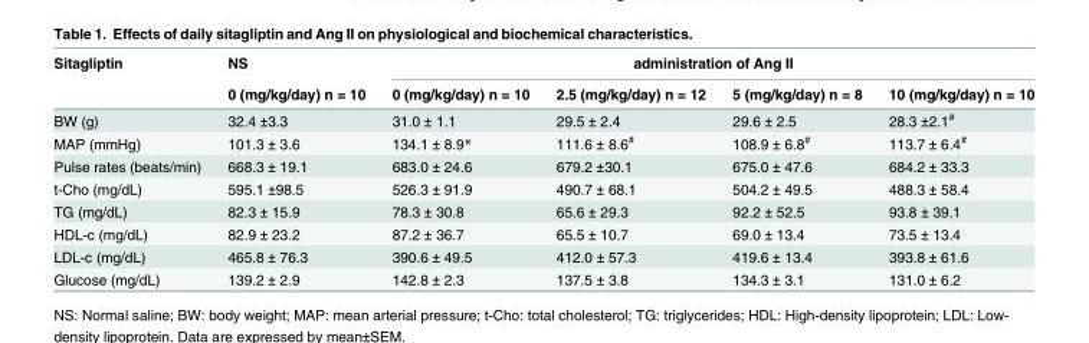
<table><thead><tr><td rowspan="2">Sitagliptin</td><td rowspan="2">NS 0 (mg/kg/day) n = 10</td><td colspan="4">administration of Ang II</td></tr><tr><td>0 (mg/kg/day) n = 10</td><td>2.5 (mg/kg/day) n = 12</td><td>5 (mg/kg/day) n = 8</td><td>10 (mg/kg/day) n = 10</td></tr></thead><tbody><tr><td>BW (g)</td><td>32.4 ±3.3</td><td>31.0 ± 1.1</td><td>29.5 ± 2.4</td><td>29.6 ± 2.5</td><td>28.3 ±2.1<sup>#</sup></td></tr><tr><td>MAP (mmHg)</td><td>101.3 ± 3.6</td><td>134.1 ± 8.9*</td><td>111.6 ± 8.6<sup>#</sup></td><td>108.9 ± 6.8<sup>#</sup></td><td>113.7 ± 6.4<sup>#</sup></td></tr><tr><td>Pulse rates (beats/min)</td><td>668.3 ± 19.1</td><td>683.0 ± 24.6</td><td>679.2 ±30.1</td><td>675.0 ± 47.6</td><td>684.2 ± 33.3</td></tr><tr><td>t-Cho (mg/dL)</td><td>595.1 ±98.5</td><td>526.3 ± 91.9</td><td>490.7 ± 68.1</td><td>504.2 ± 49.5</td><td>488.3 ± 58.4</td></tr><tr><td>TG (mg/dL)</td><td>82.3 ± 15.9</td><td>78.3 ± 30.8</td><td>65.6 ± 29.3</td><td>92.2 ± 52.5</td><td>93.8 ± 39.1</td></tr><tr><td>HDL-c (mg/dL)</td><td>82.9 ± 23.2</td><td>87.2 ± 36.7</td><td>65.5 ± 10.7</td><td>69.0 ± 13.4</td><td>73.5 ± 13.4</td></tr><tr><td>LDL-c (mg/dL)</td><td>465.8 ± 76.3</td><td>390.6 ± 49.5</td><td>412.0 ± 57.3</td><td>419.6 ± 13.4</td><td>393.8 ± 61.6</td></tr><tr><td>Glucose (mg/dL)</td><td>139.2 ± 2.9</td><td>142.8 ± 2.3</td><td>137.5 ± 3.8</td><td>134.3 ± 3.1</td><td>131.0 ± 6.2</td></tr></tbody></table>